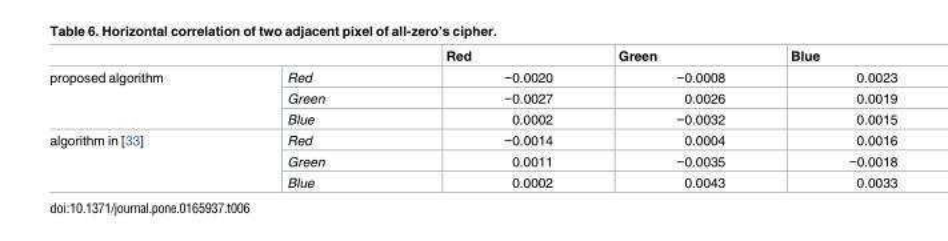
<table><thead><tr><td></td><td></td><td>Red</td><td>Green</td><td>Blue</td></tr></thead><tbody><tr><td rowspan="3">proposed algorithm</td><td>Red</td><td>−0.0020</td><td>−0.0008</td><td>0.0023</td></tr><tr><td>Green</td><td>−0.0027</td><td>0.0026</td><td>0.0019</td></tr><tr><td>Blue</td><td>0.0002</td><td>−0.0032</td><td>0.0015</td></tr><tr><td rowspan="3">algorithm in [33]</td><td>Red</td><td>−0.0014</td><td>0.0004</td><td>0.0016</td></tr><tr><td>Green</td><td>0.0011</td><td>−0.0035</td><td>−0.0018</td></tr><tr><td>Blue</td><td>0.0002</td><td>0.0043</td><td>0.0033</td></tr></tbody></table>